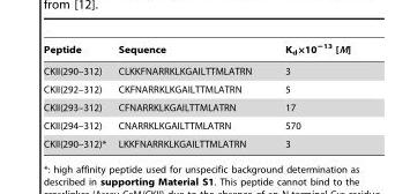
<table><thead><tr><td>Peptide</td><td>Sequence</td><td>K<sub>d</sub>×10<sup>−13</sup> [M]</td></tr></thead><tbody><tr><td>CKII(290–312)</td><td>CLKKFNARRKLKGAILTTMLATRN</td><td>3</td></tr><tr><td>CKII(292–312)</td><td>CKFNARRKLKGAILTTMLATRN</td><td>5</td></tr><tr><td>CKII(293–312)</td><td>CFNARRKLKGAILTTMLATRN</td><td>17</td></tr><tr><td>CKII(294–312)</td><td>CNARRKLKGAILTTMLATRN</td><td>570</td></tr><tr><td>CKII(290–312)*</td><td>LKKFNARRKLKGAILTTMLATRN</td><td>3</td></tr></tbody></table>